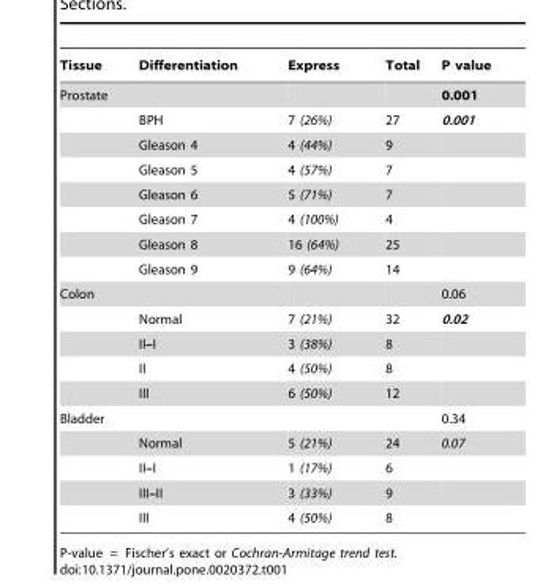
<table><thead><tr><td>Tissue</td><td>Differentiation</td><td>Express</td><td>Total</td><td>P value</td></tr></thead><tbody><tr><td colspan="2">Prostate</td><td></td><td></td><td>0.001</td></tr><tr><td></td><td>BPH</td><td>7 (26%)</td><td>27</td><td>0.001</td></tr><tr><td></td><td>Gleason 4</td><td>4 (44%)</td><td>9</td><td></td></tr><tr><td></td><td>Gleason 5</td><td>4 (57%)</td><td>7</td><td></td></tr><tr><td></td><td>Gleason 6</td><td>5 (71%)</td><td>7</td><td></td></tr><tr><td></td><td>Gleason 7</td><td>4 (100%)</td><td>4</td><td></td></tr><tr><td></td><td>Gleason 8</td><td>16 (64%)</td><td>25</td><td></td></tr><tr><td></td><td>Gleason 9</td><td>9 (64%)</td><td>14</td><td></td></tr><tr><td rowspan="5">Colon</td><td></td><td></td><td></td><td>0.06</td></tr><tr><td>Normal</td><td>7 (21%)</td><td>32</td><td>0.02</td></tr><tr><td>II–I</td><td>3 (38%)</td><td>8</td><td></td></tr><tr><td>II</td><td>4 (50%)</td><td>8</td><td></td></tr><tr><td>III</td><td>6 (50%)</td><td>12</td><td></td></tr><tr><td rowspan="5">Bladder</td><td></td><td></td><td></td><td>0.34</td></tr><tr><td>Normal</td><td>5 (21%)</td><td>24</td><td>0.07</td></tr><tr><td>II–I</td><td>1 (17%)</td><td>6</td><td></td></tr><tr><td>III–II</td><td>3 (33%)</td><td>9</td><td></td></tr><tr><td>III</td><td>4 (50%)</td><td>8</td><td></td></tr></tbody></table>